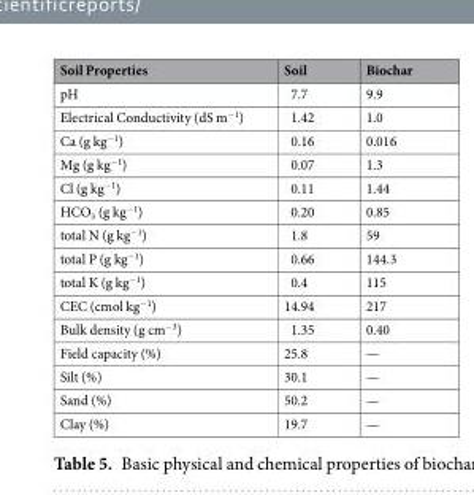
<table><thead><tr><td>Soil Properties</td><td>Soil</td><td>Biochar</td></tr></thead><tbody><tr><td>pH</td><td>7.7</td><td>9.9</td></tr><tr><td>Electrical Conductivity (dS m<sup>−1</sup>)</td><td>1.42</td><td>1.0</td></tr><tr><td>Ca (g kg<sup>−1</sup>)</td><td>0.16</td><td>0.016</td></tr><tr><td>Mg (g kg<sup>−1</sup>)</td><td>0.07</td><td>1.3</td></tr><tr><td>Cl (g kg<sup>−1</sup>)</td><td>0.11</td><td>1.44</td></tr><tr><td>HCO<sub>3</sub> (g kg<sup>−1</sup>)</td><td>0.20</td><td>0.85</td></tr><tr><td>total N (g kg<sup>−1</sup>)</td><td>1.8</td><td>59</td></tr><tr><td>total P (g kg<sup>−1</sup>)</td><td>0.66</td><td>144.3</td></tr><tr><td>total K (g kg<sup>−1</sup>)</td><td>0.4</td><td>115</td></tr><tr><td>CEC (cmol kg<sup>−1</sup>)</td><td>14.94</td><td>217</td></tr><tr><td>Bulk density (g cm<sup>−3</sup>)</td><td>1.35</td><td>0.40</td></tr><tr><td>Field capacity (%)</td><td>25.8</td><td>—</td></tr><tr><td>Silt (%)</td><td>30.1</td><td>—</td></tr><tr><td>Sand (%)</td><td>50.2</td><td>—</td></tr><tr><td>Clay (%)</td><td>19.7</td><td>—</td></tr></tbody></table>